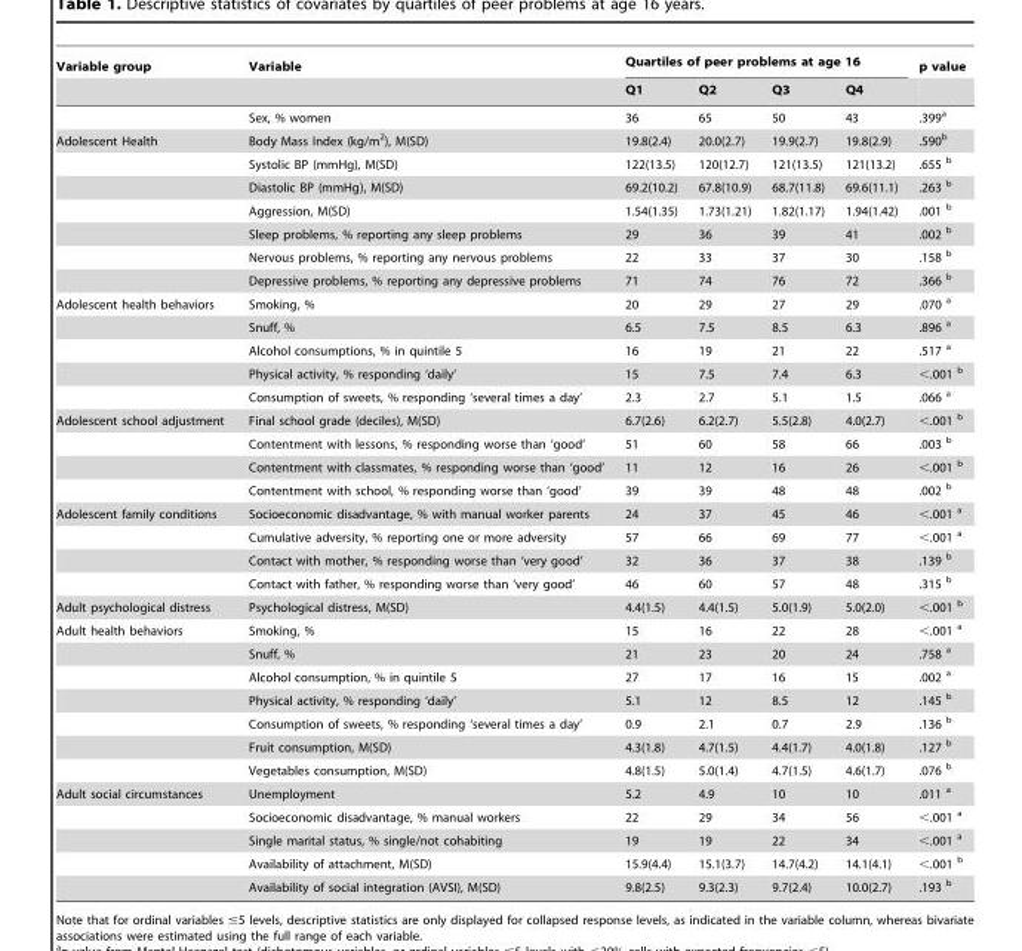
<table><thead><tr><td rowspan="2">Variable group</td><td rowspan="2">Variable</td><td colspan="4">Quartiles of peer problems at age 16</td><td rowspan="2">p value</td></tr><tr><td>Q1</td><td>Q2</td><td>Q3</td><td>Q4</td></tr></thead><tbody><tr><td></td><td>Sex, % women</td><td>36</td><td>65</td><td>50</td><td>43</td><td>.399<sup>a</sup></td></tr><tr><td rowspan="7">Adolescent Health</td><td>Body Mass Index (kg/m<sup>2</sup>), M(SD)</td><td>19.8(2.4)</td><td>20.0(2.7)</td><td>19.9(2.7)</td><td>19.8(2.9)</td><td>.590<sup>b</sup></td></tr><tr><td>Systolic BP (mmHg), M(SD)</td><td>122(13.5)</td><td>120(12.7)</td><td>121(13.5)</td><td>121(13.2)</td><td>.655 b</td></tr><tr><td>Diastolic BP (mmHg), M(SD)</td><td>69.2(10.2)</td><td>67.8(10.9)</td><td>68.7(11.8)</td><td>69.6(11.1)</td><td>.263 b</td></tr><tr><td>Aggression, M(SD)</td><td>1.54(1.35)</td><td>1.73(1.21)</td><td>1.82(1.17)</td><td>1.94(1.42)</td><td>.001 b</td></tr><tr><td>Sleep problems, % reporting any sleep problems</td><td>29</td><td>36</td><td>39</td><td>41</td><td>.002 b</td></tr><tr><td>Nervous problems, % reporting any nervous problems</td><td>22</td><td>33</td><td>37</td><td>30</td><td>.158 b</td></tr><tr><td>Depressive problems, % reporting any depressive problems</td><td>71</td><td>74</td><td>76</td><td>72</td><td>.366 b</td></tr><tr><td rowspan="5">Adolescent health behaviors</td><td>Smoking, %</td><td>20</td><td>29</td><td>27</td><td>29</td><td>.070 a</td></tr><tr><td>Snuff, %</td><td>6.5</td><td>7.5</td><td>8.5</td><td>6.3</td><td>.896 a</td></tr><tr><td>Alcohol consumptions, % in quintile 5</td><td>16</td><td>19</td><td>21</td><td>22</td><td>.517 a</td></tr><tr><td>Physical activity, % responding ‘daily’</td><td>15</td><td>7.5</td><td>7.4</td><td>6.3</td><td>&lt;.001 b</td></tr><tr><td>Consumption of sweets, % responding ‘several times a day’</td><td>2.3</td><td>2.7</td><td>5.1</td><td>1.5</td><td>.066 a</td></tr><tr><td rowspan="4">Adolescent school adjustment</td><td>Final school grade (deciles), M(SD)</td><td>6.7(2.6)</td><td>6.2(2.7)</td><td>5.5(2.8)</td><td>4.0(2.7)</td><td>&lt;.001 b</td></tr><tr><td>Contentment with lessons, % responding worse than ‘good’</td><td>51</td><td>60</td><td>58</td><td>66</td><td>.003 b</td></tr><tr><td>Contentment with classmates, % responding worse than ‘good’</td><td>11</td><td>12</td><td>16</td><td>26</td><td>&lt;.001 b</td></tr><tr><td>Contentment with school, % responding worse than ‘good’</td><td>39</td><td>39</td><td>48</td><td>48</td><td>.002 b</td></tr><tr><td rowspan="4">Adolescent family conditions</td><td>Socioeconomic disadvantage, % with manual worker parents</td><td>24</td><td>37</td><td>45</td><td>46</td><td>&lt;.001 a</td></tr><tr><td>Cumulative adversity, % reporting one or more adversity</td><td>57</td><td>66</td><td>69</td><td>77</td><td>&lt;.001 a</td></tr><tr><td>Contact with mother, % responding worse than ‘very good’</td><td>32</td><td>36</td><td>37</td><td>38</td><td>.139 b</td></tr><tr><td>Contact with father, % responding worse than ‘very good’</td><td>46</td><td>60</td><td>57</td><td>48</td><td>.315 b</td></tr><tr><td>Adult psychological distress</td><td>Psychological distress, M(SD)</td><td>4.4(1.5)</td><td>4.4(1.5)</td><td>5.0(1.9)</td><td>5.0(2.0)</td><td>&lt;.001 b</td></tr><tr><td rowspan="7">Adult health behaviors</td><td>Smoking, %</td><td>15</td><td>16</td><td>22</td><td>28</td><td>&lt;.001 a</td></tr><tr><td>Snuff, %</td><td>21</td><td>23</td><td>20</td><td>24</td><td>.758 a</td></tr><tr><td>Alcohol consumption, % in quintile 5</td><td>27</td><td>17</td><td>16</td><td>15</td><td>.002 a</td></tr><tr><td>Physical activity, % responding ‘daily’</td><td>5.1</td><td>12</td><td>8.5</td><td>12</td><td>.145 b</td></tr><tr><td>Consumption of sweets, % responding ‘several times a day’</td><td>0.9</td><td>2.1</td><td>0.7</td><td>2.9</td><td>.136 b</td></tr><tr><td>Fruit consumption, M(SD)</td><td>4.3(1.8)</td><td>4.7(1.5)</td><td>4.4(1.7)</td><td>4.0(1.8)</td><td>.127 b</td></tr><tr><td>Vegetables consumption, M(SD)</td><td>4.8(1.5)</td><td>5.0(1.4)</td><td>4.7(1.5)</td><td>4.6(1.7)</td><td>.076 b</td></tr><tr><td rowspan="5">Adult social circumstances</td><td>Unemployment</td><td>5.2</td><td>4.9</td><td>10</td><td>10</td><td>.011 a</td></tr><tr><td>Socioeconomic disadvantage, % manual workers</td><td>22</td><td>29</td><td>34</td><td>56</td><td>&lt;.001 a</td></tr><tr><td>Single marital status, % single/not cohabiting</td><td>19</td><td>19</td><td>22</td><td>34</td><td>&lt;.001 a</td></tr><tr><td>Availability of attachment, M(SD)</td><td>15.9(4.4)</td><td>15.1(3.7)</td><td>14.7(4.2)</td><td>14.1(4.1)</td><td>&lt;.001 b</td></tr><tr><td>Availability of social integration (AVSI), M(SD)</td><td>9.8(2.5)</td><td>9.3(2.3)</td><td>9.7(2.4)</td><td>10.0(2.7)</td><td>.193 b</td></tr></tbody></table>